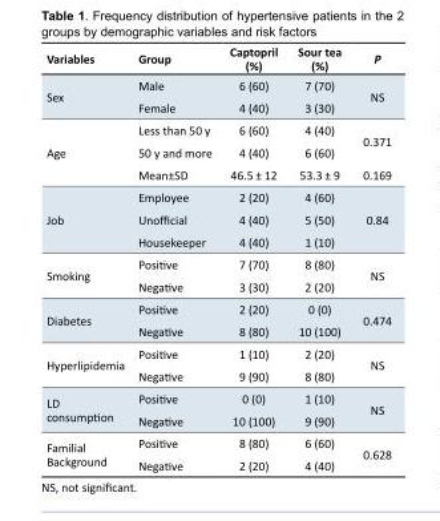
<table><tbody><tr><td>Variables</td><td>Group</td><td>Captopril (%)</td><td>Sour tea (%)</td><td>P</td></tr><tr><td rowspan="2">Sex</td><td>Male</td><td>6 (60)</td><td>7 (70)</td><td rowspan="2">NS</td></tr><tr><td>Female</td><td>4 (40)</td><td>3 (30)</td></tr><tr><td rowspan="3">Age</td><td>Less than 50 y</td><td>6 (60)</td><td>4 (40)</td><td rowspan="2">0.371</td></tr><tr><td>50 y and more</td><td>4 (40)</td><td>6 (60)</td></tr><tr><td>Mean±SD</td><td>46.5 ± 12</td><td>53.3 ± 9</td><td>0.169</td></tr><tr><td rowspan="3">Job</td><td>Employee</td><td>2 (20)</td><td>4 (60)</td><td rowspan="3">0.84</td></tr><tr><td>Unofficial</td><td>4 (40)</td><td>5 (50)</td></tr><tr><td>Housekeeper</td><td>4 (40)</td><td>1 (10)</td></tr><tr><td rowspan="2">Smoking</td><td>Positive</td><td>7 (70)</td><td>8 (80)</td><td rowspan="2">NS</td></tr><tr><td>Negative</td><td>3 (30)</td><td>2 (20)</td></tr><tr><td rowspan="2">Diabetes</td><td>Positive</td><td>2 (20)</td><td>0 (0)</td><td rowspan="2">0.474</td></tr><tr><td>Negative</td><td>8 (80)</td><td>10 (100)</td></tr><tr><td rowspan="2">Hyperlipidemia</td><td>Positive</td><td>1 (10)</td><td>2 (20)</td><td rowspan="2">NS</td></tr><tr><td>Negative</td><td>9 (90)</td><td>8 (80)</td></tr><tr><td rowspan="2">LD consumption</td><td>Positive</td><td>0 (0)</td><td>1 (10)</td><td rowspan="2">NS</td></tr><tr><td>Negative</td><td>10 (100)</td><td>9 (90)</td></tr><tr><td rowspan="2">Familial Background</td><td>Positive</td><td>8 (80)</td><td>6 (60)</td><td rowspan="2">0.628</td></tr><tr><td>Negative</td><td>2 (20)</td><td>4 (40)</td></tr></tbody></table>